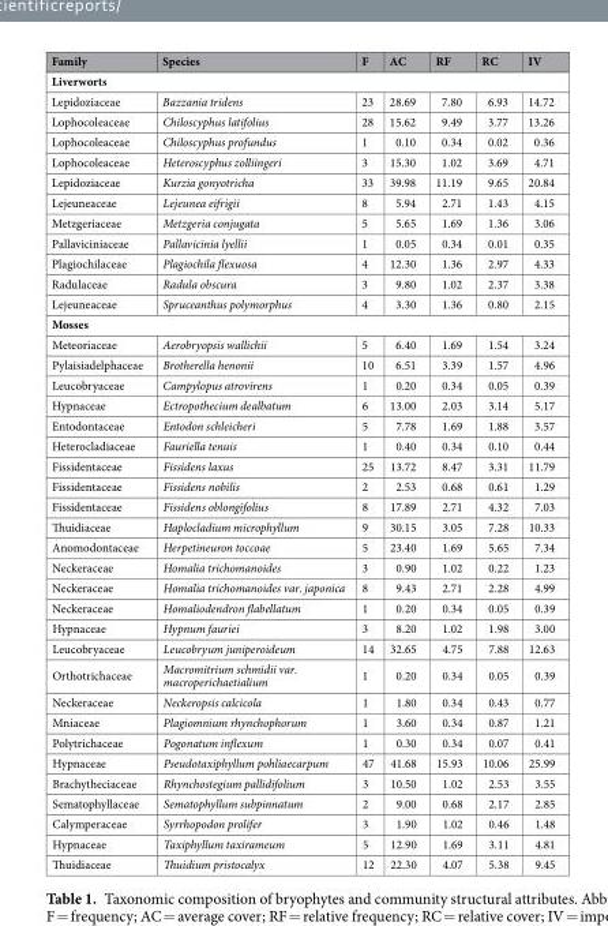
<table><thead><tr><td>Family</td><td>Species</td><td>F</td><td>AC</td><td>RF</td><td>RC</td><td>IV</td></tr></thead><tbody><tr><td colspan="7">Liverworts</td></tr><tr><td>Lepidoziaceae</td><td>Bazzania tridens</td><td>23</td><td>28.69</td><td>7.80</td><td>6.93</td><td>14.72</td></tr><tr><td>Lophocoleaceae</td><td>Chiloscyphus latifolius</td><td>28</td><td>15.62</td><td>9.49</td><td>3.77</td><td>13.26</td></tr><tr><td>Lophocoleaceae</td><td>Chiloscyphus profundus</td><td>1</td><td>0.10</td><td>0.34</td><td>0.02</td><td>0.36</td></tr><tr><td>Lophocoleaceae</td><td>Heteroscyphus zolliingeri</td><td>3</td><td>15.30</td><td>1.02</td><td>3.69</td><td>4.71</td></tr><tr><td>Lepidoziaceae</td><td>Kurzia gonyotricha</td><td>33</td><td>39.98</td><td>11.19</td><td>9.65</td><td>20.84</td></tr><tr><td>Lejeuneaceae</td><td>Lejeunea eifrigii</td><td>8</td><td>5.94</td><td>2.71</td><td>1.43</td><td>4.15</td></tr><tr><td>Metzgeriaceae</td><td>Metzgeria conjugata</td><td>5</td><td>5.65</td><td>1.69</td><td>1.36</td><td>3.06</td></tr><tr><td>Pallaviciniaceae</td><td>Pallavicinia lyellii</td><td>1</td><td>0.05</td><td>0.34</td><td>0.01</td><td>0.35</td></tr><tr><td>Plagiochilaceae</td><td>Plagiochila flexuosa</td><td>4</td><td>12.30</td><td>1.36</td><td>2.97</td><td>4.33</td></tr><tr><td>Radulaceae</td><td>Radula obscura</td><td>3</td><td>9.80</td><td>1.02</td><td>2.37</td><td>3.38</td></tr><tr><td>Lejeuneaceae</td><td>Spruceanthus polymorphus</td><td>4</td><td>3.30</td><td>1.36</td><td>0.80</td><td>2.15</td></tr><tr><td colspan="7">Mosses</td></tr><tr><td>Meteoriaceae</td><td>Aerobryopsis wallichii</td><td>5</td><td>6.40</td><td>1.69</td><td>1.54</td><td>3.24</td></tr><tr><td>Pylaisiadelphaceae</td><td>Brotherella henonii</td><td>10</td><td>6.51</td><td>3.39</td><td>1.57</td><td>4.96</td></tr><tr><td>Leucobryaceae</td><td>Campylopus atrovirens</td><td>1</td><td>0.20</td><td>0.34</td><td>0.05</td><td>0.39</td></tr><tr><td>Hypnaceae</td><td>Ectropothecium dealbatum</td><td>6</td><td>13.00</td><td>2.03</td><td>3.14</td><td>5.17</td></tr><tr><td>Entodontaceae</td><td>Entodon schleicheri</td><td>5</td><td>7.78</td><td>1.69</td><td>1.88</td><td>3.57</td></tr><tr><td>Heterocladiaceae</td><td>Fauriella tenuis</td><td>1</td><td>0.40</td><td>0.34</td><td>0.10</td><td>0.44</td></tr><tr><td>Fissidentaceae</td><td>Fissidens laxus</td><td>25</td><td>13.72</td><td>8.47</td><td>3.31</td><td>11.79</td></tr><tr><td>Fissidentaceae</td><td>Fissidens nobilis</td><td>2</td><td>2.53</td><td>0.68</td><td>0.61</td><td>1.29</td></tr><tr><td>Fissidentaceae</td><td>Fissidens oblongifolius</td><td>8</td><td>17.89</td><td>2.71</td><td>4.32</td><td>7.03</td></tr><tr><td>Thuidiaceae</td><td>Haplocladium microphyllum</td><td>9</td><td>30.15</td><td>3.05</td><td>7.28</td><td>10.33</td></tr><tr><td>Anomodontaceae</td><td>Herpetineuron toccoae</td><td>5</td><td>23.40</td><td>1.69</td><td>5.65</td><td>7.34</td></tr><tr><td>Neckeraceae</td><td>Homalia trichomanoides</td><td>3</td><td>0.90</td><td>1.02</td><td>0.22</td><td>1.23</td></tr><tr><td>Neckeraceae</td><td>Homalia trichomanoides var. japonica</td><td>8</td><td>9.43</td><td>2.71</td><td>2.28</td><td>4.99</td></tr><tr><td>Neckeraceae</td><td>Homaliodendron flabellatum</td><td>1</td><td>0.20</td><td>0.34</td><td>0.05</td><td>0.39</td></tr><tr><td>Hypnaceae</td><td>Hypnum fauriei</td><td>3</td><td>8.20</td><td>1.02</td><td>1.98</td><td>3.00</td></tr><tr><td>Leucobryaceae</td><td>Leucobryum juniperoideum</td><td>14</td><td>32.65</td><td>4.75</td><td>7.88</td><td>12.63</td></tr><tr><td>Orthotrichaceae</td><td>Macromitrium schmidii var. macroperichaetialium</td><td>1</td><td>0.20</td><td>0.34</td><td>0.05</td><td>0.39</td></tr><tr><td>Neckeraceae</td><td>Neckeropsis calcicola</td><td>1</td><td>1.80</td><td>0.34</td><td>0.43</td><td>0.77</td></tr><tr><td>Mniaceae</td><td>Plagiomnium rhynchophorum</td><td>1</td><td>3.60</td><td>0.34</td><td>0.87</td><td>1.21</td></tr><tr><td>Polytrichaceae</td><td>Pogonatum inflexum</td><td>1</td><td>0.30</td><td>0.34</td><td>0.07</td><td>0.41</td></tr><tr><td>Hypnaceae</td><td>Pseudotaxiphyllum pohliaecarpum</td><td>47</td><td>41.68</td><td>15.93</td><td>10.06</td><td>25.99</td></tr><tr><td>Brachytheciaceae</td><td>Rhynchostegium pallidifolium</td><td>3</td><td>10.50</td><td>1.02</td><td>2.53</td><td>3.55</td></tr><tr><td>Sematophyllaceae</td><td>Sematophyllum subpinnatum</td><td>2</td><td>9.00</td><td>0.68</td><td>2.17</td><td>2.85</td></tr><tr><td>Calymperaceae</td><td>Syrrhopodon prolifer</td><td>3</td><td>1.90</td><td>1.02</td><td>0.46</td><td>1.48</td></tr><tr><td>Hypnaceae</td><td>Taxiphyllum taxirameum</td><td>5</td><td>12.90</td><td>1.69</td><td>3.11</td><td>4.81</td></tr><tr><td>Thuidiaceae</td><td>Thuidium pristocalyx</td><td>12</td><td>22.30</td><td>4.07</td><td>5.38</td><td>9.45</td></tr></tbody></table>